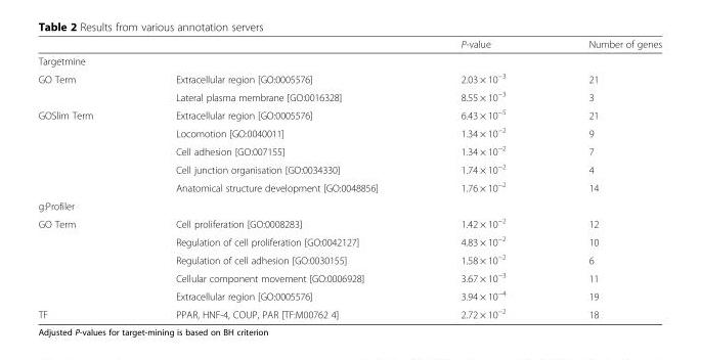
<table><thead><tr><td></td><td></td><td>P-value</td><td>Number of genes</td></tr></thead><tbody><tr><td colspan="4">Targetmine</td></tr><tr><td rowspan="2">GO Term</td><td>Extracellular region [GO:0005576]</td><td>2.03 × 10<sup>−3</sup></td><td>21</td></tr><tr><td>Lateral plasma membrane [GO:0016328]</td><td>8.55 × 10<sup>−3</sup></td><td>3</td></tr><tr><td rowspan="5">GOSlim Term</td><td>Extracellular region [GO:0005576]</td><td>6.43 × 10<sup>−5</sup></td><td>21</td></tr><tr><td>Locomotion [GO:0040011]</td><td>1.34 × 10<sup>−2</sup></td><td>9</td></tr><tr><td>Cell adhesion [GO:007155]</td><td>1.34 × 10<sup>−2</sup></td><td>7</td></tr><tr><td>Cell junction organisation [GO:0034330]</td><td>1.74 × 10<sup>−2</sup></td><td>4</td></tr><tr><td>Anatomical structure development [GO:0048856]</td><td>1.76 × 10<sup>−2</sup></td><td>14</td></tr><tr><td colspan="4">g:Profiler</td></tr><tr><td rowspan="5">GO Term</td><td>Cell proliferation [GO:0008283]</td><td>1.42 × 10<sup>−2</sup></td><td>12</td></tr><tr><td>Regulation of cell proliferation [GO:0042127]</td><td>4.83 × 10<sup>−2</sup></td><td>10</td></tr><tr><td>Regulation of cell adhesion [GO:0030155]</td><td>1.58 × 10<sup>−2</sup></td><td>6</td></tr><tr><td>Cellular component movement [GO:0006928]</td><td>3.67 × 10<sup>−3</sup></td><td>11</td></tr><tr><td>Extracellular region [GO:0005576]</td><td>3.94 × 10<sup>−4</sup></td><td>19</td></tr><tr><td>TF</td><td>PPAR, HNF-4, COUP, PAR [TF:M00762 4]</td><td>2.72 × 10<sup>−2</sup></td><td>18</td></tr></tbody></table>